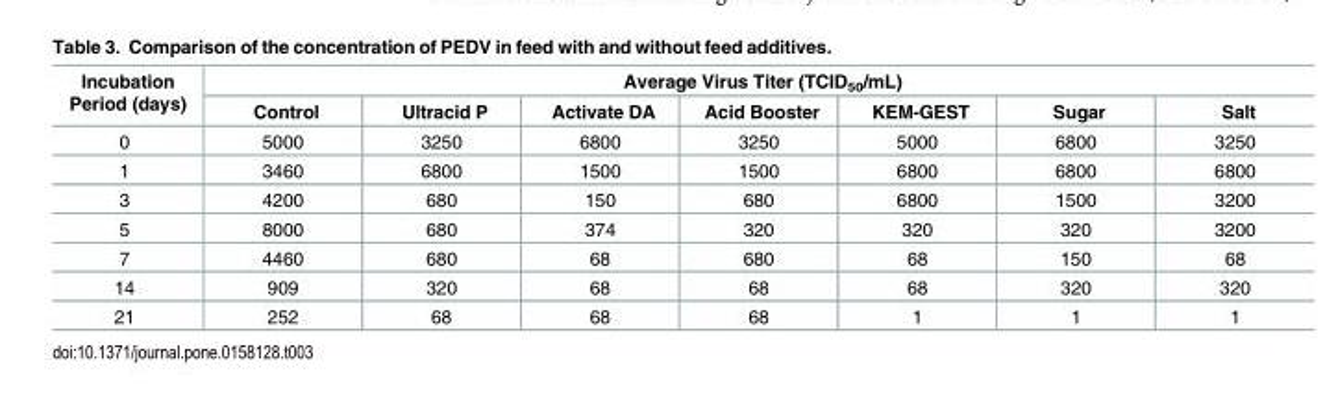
<table><thead><tr><td rowspan="2">Incubation Period (days)</td><td colspan="7">Average Virus Titer (TCID<sub>50</sub>/mL)</td></tr><tr><td>Control</td><td>Ultracid P</td><td>Activate DA</td><td>Acid Booster</td><td>KEM-GEST</td><td>Sugar</td><td>Salt</td></tr></thead><tbody><tr><td>0</td><td>5000</td><td>3250</td><td>6800</td><td>3250</td><td>5000</td><td>6800</td><td>3250</td></tr><tr><td>1</td><td>3460</td><td>6800</td><td>1500</td><td>1500</td><td>6800</td><td>6800</td><td>6800</td></tr><tr><td>3</td><td>4200</td><td>680</td><td>150</td><td>680</td><td>6800</td><td>1500</td><td>3200</td></tr><tr><td>5</td><td>8000</td><td>680</td><td>374</td><td>320</td><td>320</td><td>320</td><td>3200</td></tr><tr><td>7</td><td>4460</td><td>680</td><td>68</td><td>680</td><td>68</td><td>150</td><td>68</td></tr><tr><td>14</td><td>909</td><td>320</td><td>68</td><td>68</td><td>68</td><td>320</td><td>320</td></tr><tr><td>21</td><td>252</td><td>68</td><td>68</td><td>68</td><td>1</td><td>1</td><td>1</td></tr></tbody></table>